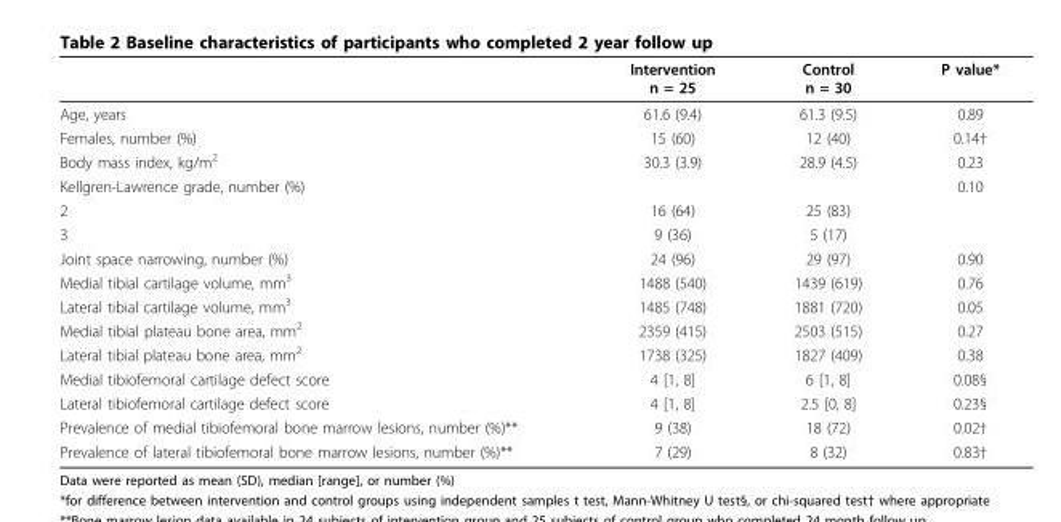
<table><thead><tr><td></td><td>Intervention n = 25</td><td>Control n = 30</td><td>P value*</td></tr></thead><tbody><tr><td>Age, years</td><td>61.6 (9.4)</td><td>61.3 (9.5)</td><td>0.89</td></tr><tr><td>Females, number (%)</td><td>15 (60)</td><td>12 (40)</td><td>0.14†</td></tr><tr><td>Body mass index, kg/m<sup>2</sup></td><td>30.3 (3.9)</td><td>28.9 (4.5)</td><td>0.23</td></tr><tr><td>Kellgren-Lawrence grade, number (%)</td><td></td><td></td><td>0.10</td></tr><tr><td>2</td><td>16 (64)</td><td>25 (83)</td><td></td></tr><tr><td>3</td><td>9 (36)</td><td>5 (17)</td><td></td></tr><tr><td>Joint space narrowing, number (%)</td><td>24 (96)</td><td>29 (97)</td><td>0.90</td></tr><tr><td>Medial tibial cartilage volume, mm<sup>3</sup></td><td>1488 (540)</td><td>1439 (619)</td><td>0.76</td></tr><tr><td>Lateral tibial cartilage volume, mm<sup>3</sup></td><td>1485 (748)</td><td>1881 (720)</td><td>0.05</td></tr><tr><td>Medial tibial plateau bone area, mm<sup>2</sup></td><td>2359 (415)</td><td>2503 (515)</td><td>0.27</td></tr><tr><td>Lateral tibial plateau bone area, mm<sup>2</sup></td><td>1738 (325)</td><td>1827 (409)</td><td>0.38</td></tr><tr><td>Medial tibiofemoral cartilage defect score</td><td>4 [1, 8]</td><td>6 [1, 8]</td><td>0.08§</td></tr><tr><td>Lateral tibiofemoral cartilage defect score</td><td>4 [1, 8]</td><td>2.5 [0, 8]</td><td>0.23§</td></tr><tr><td>Prevalence of medial tibiofemoral bone marrow lesions, number (%)**</td><td>9 (38)</td><td>18 (72)</td><td>0.02†</td></tr><tr><td>Prevalence of lateral tibiofemoral bone marrow lesions, number (%)**</td><td>7 (29)</td><td>8 (32)</td><td>0.83†</td></tr></tbody></table>